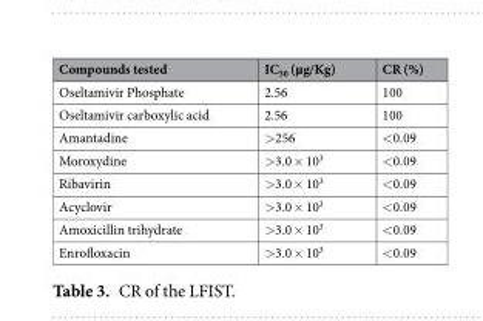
<table><thead><tr><td>Compounds tested</td><td>IC<sub>50</sub> (µg/Kg)</td><td>CR (%)</td></tr></thead><tbody><tr><td>Oseltamivir Phosphate</td><td>2.56</td><td>100</td></tr><tr><td>Oseltamivir carboxylic acid</td><td>2.56</td><td>100</td></tr><tr><td>Amantadine</td><td>&gt;256</td><td>&lt;0.09</td></tr><tr><td>Moroxydine</td><td>&gt;3.0 × 10<sup>3</sup></td><td>&lt;0.09</td></tr><tr><td>Ribavirin</td><td>&gt;3.0 × 10<sup>3</sup></td><td>&lt;0.09</td></tr><tr><td>Acyclovir</td><td>&gt;3.0 × 10<sup>3</sup></td><td>&lt;0.09</td></tr><tr><td>Amoxicillin trihydrate</td><td>&gt;3.0 × 10<sup>3</sup></td><td>&lt;0.09</td></tr><tr><td>Enrofloxacin</td><td>&gt;3.0 × 10<sup>3</sup></td><td>&lt;0.09</td></tr></tbody></table>